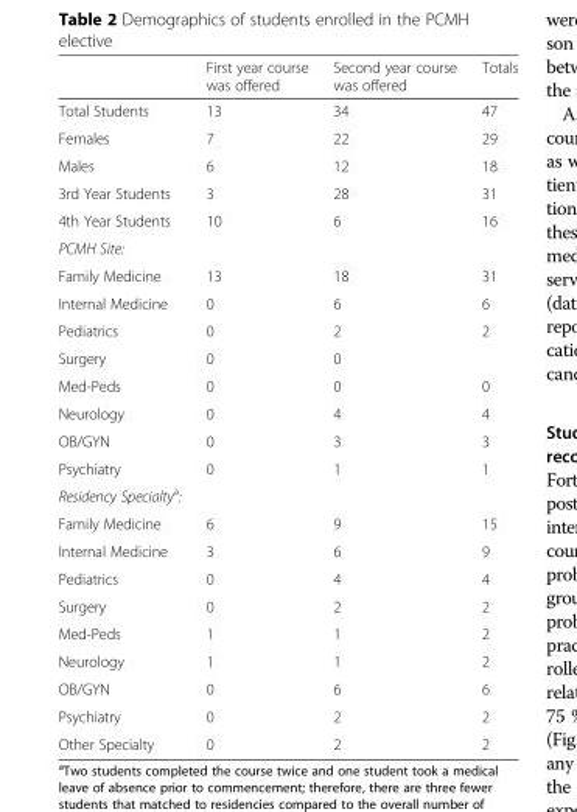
<table><thead><tr><td></td><td>First year course was offered</td><td>Second year course was offered</td><td>Totals</td></tr></thead><tbody><tr><td>Total Students</td><td>13</td><td>34</td><td>47</td></tr><tr><td>Females</td><td>7</td><td>22</td><td>29</td></tr><tr><td>Males</td><td>6</td><td>12</td><td>18</td></tr><tr><td>3rd Year Students</td><td>3</td><td>28</td><td>31</td></tr><tr><td>4th Year Students</td><td>10</td><td>6</td><td>16</td></tr><tr><td colspan="4">PCMH Site:</td></tr><tr><td>Family Medicine</td><td>13</td><td>18</td><td>31</td></tr><tr><td>Internal Medicine</td><td>0</td><td>6</td><td>6</td></tr><tr><td>Pediatrics</td><td>0</td><td>2</td><td>2</td></tr><tr><td>Surgery</td><td>0</td><td>0</td><td></td></tr><tr><td>Med-Peds</td><td>0</td><td>0</td><td>0</td></tr><tr><td>Neurology</td><td>0</td><td>4</td><td>4</td></tr><tr><td>OB/GYN</td><td>0</td><td>3</td><td>3</td></tr><tr><td>Psychiatry</td><td>0</td><td>1</td><td>1</td></tr><tr><td colspan="4">Residency Specialty<sup>a</sup>:</td></tr><tr><td>Family Medicine</td><td>6</td><td>9</td><td>15</td></tr><tr><td>Internal Medicine</td><td>3</td><td>6</td><td>9</td></tr><tr><td>Pediatrics</td><td>0</td><td>4</td><td>4</td></tr><tr><td>Surgery</td><td>0</td><td>2</td><td>2</td></tr><tr><td>Med-Peds</td><td>1</td><td>1</td><td>2</td></tr><tr><td>Neurology</td><td>1</td><td>1</td><td>2</td></tr><tr><td>OB/GYN</td><td>0</td><td>6</td><td>6</td></tr><tr><td>Psychiatry</td><td>0</td><td>2</td><td>2</td></tr><tr><td>Other Specialty</td><td>0</td><td>2</td><td>2</td></tr></tbody></table>